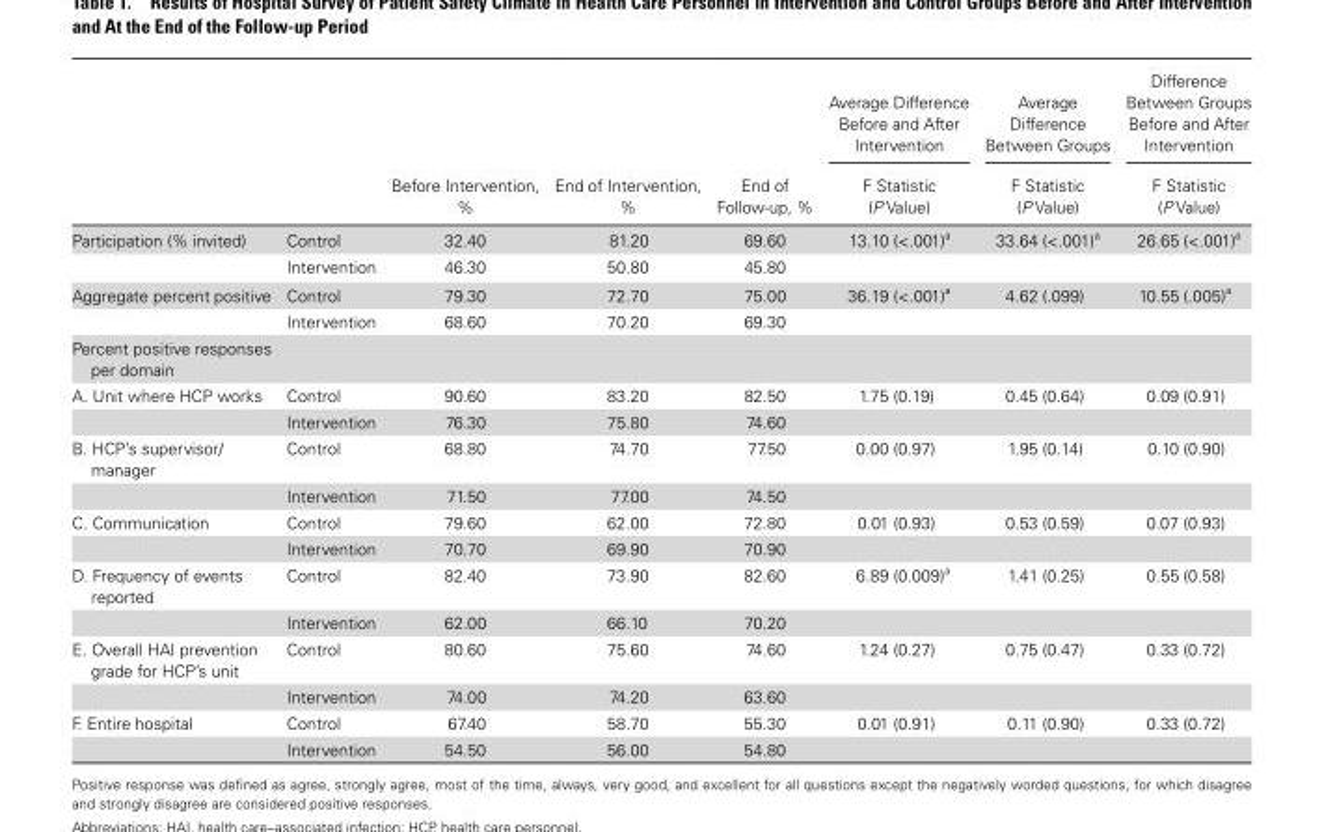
<table><thead><tr><td rowspan="2"></td><td rowspan="2"></td><td rowspan="2">Before Intervention, %</td><td rowspan="2">End of Intervention, %</td><td rowspan="2">End of Follow-up, %</td><td rowspan="2">Average Difference Before and After Intervention F Statistic (P Value)</td><td rowspan="2">Average Difference Between Groups F Statistic (P Value)</td><td rowspan="2">Difference Between Groups Before and After Intervention F Statistic (P Value)</td></tr><tr></tr></thead><tbody><tr><td rowspan="2">Participation (% invited)</td><td>Control</td><td>32.40</td><td>81.20</td><td>69.60</td><td>13.10 (&lt;.001)<sup>a</sup></td><td>33.64 (&lt;.001)<sup>a</sup></td><td>26.65 (&lt;.001)<sup>a</sup></td></tr><tr><td>Intervention</td><td>46.30</td><td>50.80</td><td>45.80</td><td></td><td></td><td></td></tr><tr><td rowspan="2">Aggregate percent positive</td><td>Control</td><td>79.30</td><td>72.70</td><td>75.00</td><td>36.19 (&lt;.001)<sup>a</sup></td><td>4.62 (.099)</td><td>10.55 (.005)<sup>a</sup></td></tr><tr><td>Intervention</td><td>68.60</td><td>70.20</td><td>69.30</td><td></td><td></td><td></td></tr><tr><td colspan="8">Percent positive responses per domain</td></tr><tr><td rowspan="2">A. Unit where HCP works</td><td>Control</td><td>90.60</td><td>83.20</td><td>82.50</td><td>1.75 (0.19)</td><td>0.45 (0.64)</td><td>0.09 (0.91)</td></tr><tr><td>Intervention</td><td>76.30</td><td>75.80</td><td>74.60</td><td></td><td></td><td></td></tr><tr><td rowspan="2">B. HCP’s supervisor/ manager</td><td>Control</td><td>68.80</td><td>74.70</td><td>77.50</td><td>0.00 (0.97)</td><td>1.95 (0.14)</td><td>0.10 (0.90)</td></tr><tr><td>Intervention</td><td>71.50</td><td>77.00</td><td>74.50</td><td></td><td></td><td></td></tr><tr><td rowspan="2">C. Communication</td><td>Control</td><td>79.60</td><td>62.00</td><td>72.80</td><td>0.01 (0.93)</td><td>0.53 (0.59)</td><td>0.07 (0.93)</td></tr><tr><td>Intervention</td><td>70.70</td><td>69.90</td><td>70.90</td><td></td><td></td><td></td></tr><tr><td rowspan="2">D. Frequency of events reported</td><td>Control</td><td>82.40</td><td>73.90</td><td>82.60</td><td>6.89 (0.009)<sup>a</sup></td><td>1.41 (0.25)</td><td>0.55 (0.58)</td></tr><tr><td>Intervention</td><td>62.00</td><td>66.10</td><td>70.20</td><td></td><td></td><td></td></tr><tr><td rowspan="2">E. Overall HAI prevention grade for HCP’s unit</td><td>Control</td><td>80.60</td><td>75.60</td><td>74.60</td><td>1.24 (0.27)</td><td>0.75 (0.47)</td><td>0.33 (0.72)</td></tr><tr><td>Intervention</td><td>74.00</td><td>74.20</td><td>63.60</td><td></td><td></td><td></td></tr><tr><td rowspan="2">F. Entire hospital</td><td>Control</td><td>67.40</td><td>58.70</td><td>55.30</td><td>0.01 (0.91)</td><td>0.11 (0.90)</td><td>0.33 (0.72)</td></tr><tr><td>Intervention</td><td>54.50</td><td>56.00</td><td>54.80</td><td></td><td></td><td></td></tr></tbody></table>